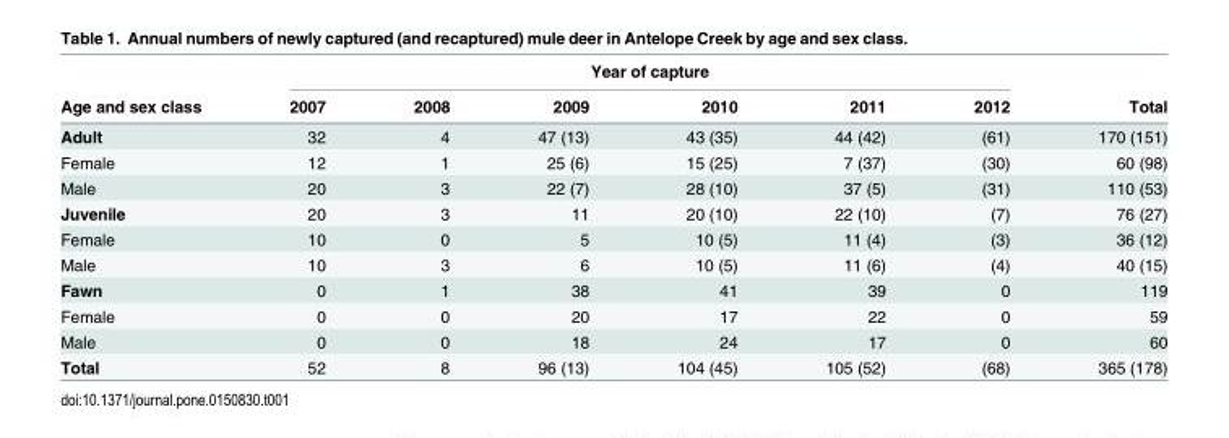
<table><thead><tr><td rowspan="2">Age and sex class</td><td colspan="6">Year of capture</td><td rowspan="2">Total</td></tr><tr><td>2007</td><td>2008</td><td>2009</td><td>2010</td><td>2011</td><td>2012</td></tr></thead><tbody><tr><td>Adult</td><td>32</td><td>4</td><td>47 (13)</td><td>43 (35)</td><td>44 (42)</td><td>(61)</td><td>170 (151)</td></tr><tr><td>Female</td><td>12</td><td>1</td><td>25 (6)</td><td>15 (25)</td><td>7 (37)</td><td>(30)</td><td>60 (98)</td></tr><tr><td>Male</td><td>20</td><td>3</td><td>22 (7)</td><td>28 (10)</td><td>37 (5)</td><td>(31)</td><td>110 (53)</td></tr><tr><td>Juvenile</td><td>20</td><td>3</td><td>11</td><td>20 (10)</td><td>22 (10)</td><td>(7)</td><td>76 (27)</td></tr><tr><td>Female</td><td>10</td><td>0</td><td>5</td><td>10 (5)</td><td>11 (4)</td><td>(3)</td><td>36 (12)</td></tr><tr><td>Male</td><td>10</td><td>3</td><td>6</td><td>10 (5)</td><td>11 (6)</td><td>(4)</td><td>40 (15)</td></tr><tr><td>Fawn</td><td>0</td><td>1</td><td>38</td><td>41</td><td>39</td><td>0</td><td>119</td></tr><tr><td>Female</td><td>0</td><td>0</td><td>20</td><td>17</td><td>22</td><td>0</td><td>59</td></tr><tr><td>Male</td><td>0</td><td>0</td><td>18</td><td>24</td><td>17</td><td>0</td><td>60</td></tr><tr><td>Total</td><td>52</td><td>8</td><td>96 (13)</td><td>104 (45)</td><td>105 (52)</td><td>(68)</td><td>365 (178)</td></tr></tbody></table>